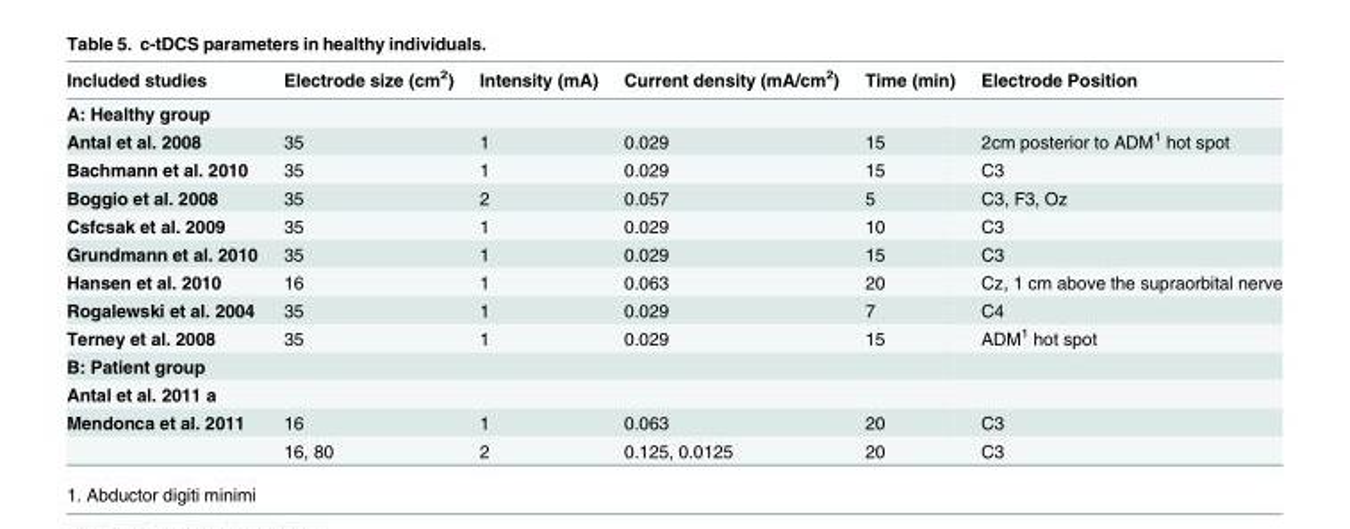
<table><thead><tr><td>Included studies</td><td>Electrode size (cm<sup>2</sup>)</td><td>Intensity (mA)</td><td>Current density (mA/cm<sup>2</sup>)</td><td>Time (min)</td><td>Electrode Position</td></tr></thead><tbody><tr><td colspan="6">A: Healthy group</td></tr><tr><td>Antal et al. 2008</td><td>35</td><td>1</td><td>0.029</td><td>15</td><td>2cm posterior to ADM<sup>1</sup> hot spot</td></tr><tr><td>Bachmann et al. 2010</td><td>35</td><td>1</td><td>0.029</td><td>15</td><td>C3</td></tr><tr><td>Boggio et al. 2008</td><td>35</td><td>2</td><td>0.057</td><td>5</td><td>C3, F3, Oz</td></tr><tr><td>Csfcsak et al. 2009</td><td>35</td><td>1</td><td>0.029</td><td>10</td><td>C3</td></tr><tr><td>Grundmann et al. 2010</td><td>35</td><td>1</td><td>0.029</td><td>15</td><td>C3</td></tr><tr><td>Hansen et al. 2010</td><td>16</td><td>1</td><td>0.063</td><td>20</td><td>Cz, 1 cm above the supraorbital nerve</td></tr><tr><td>Rogalewski et al. 2004</td><td>35</td><td>1</td><td>0.029</td><td>7</td><td>C4</td></tr><tr><td>Terney et al. 2008</td><td>35</td><td>1</td><td>0.029</td><td>15</td><td>ADM<sup>1</sup> hot spot</td></tr><tr><td colspan="6">B: Patient group</td></tr><tr><td colspan="6">Antal et al. 2011 a</td></tr><tr><td rowspan="2">Mendonca et al. 2011</td><td>16</td><td>1</td><td>0.063</td><td>20</td><td>C3</td></tr><tr><td>16, 80</td><td>2</td><td>0.125, 0.0125</td><td>20</td><td>C3</td></tr></tbody></table>